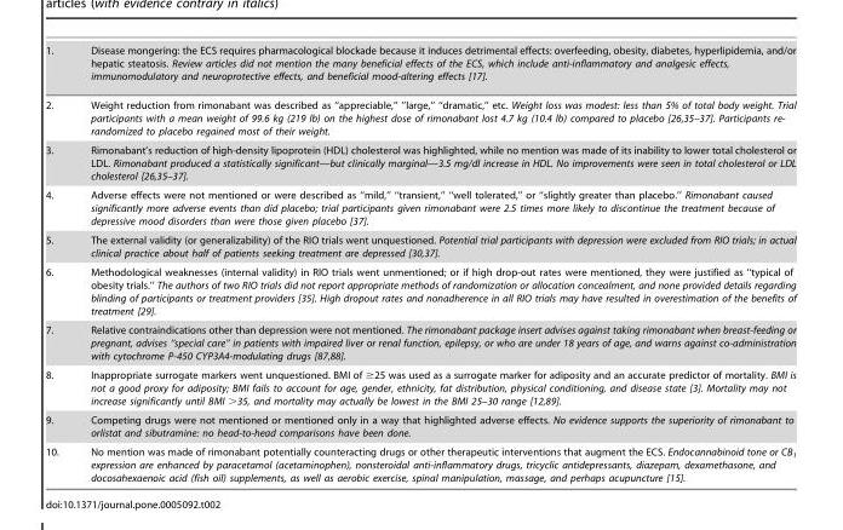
<table><tbody><tr><td>1.</td><td>Disease mongering: the ECS requires pharmacological blockade because it induces detrimental effects: overfeeding, obesity, diabetes, hyperlipidemia, and/or hepatic steatosis. Review articles did not mention the many beneficial effects of the ECS, which include anti-inflammatory and analgesic effects, immunomodulatory and neuroprotective effects, and beneficial mood-altering effects [17].</td></tr><tr><td>2.</td><td>Weight reduction from rimonabant was described as ‘‘appreciable,’’ ’’large,’’ ‘‘dramatic,’’ etc. Weight loss was modest: less than 5% of total body weight. Trial participants with a mean weight of 99.6 kg (219 lb) on the highest dose of rimonabant lost 4.7 kg (10.4 lb) compared to placebo [26,35–37]. Participants re- randomized to placebo regained most of their weight.</td></tr><tr><td>3.</td><td>Rimonabant’s reduction of high-density lipoprotein (HDL) cholesterol was highlighted, while no mention was made of its inability to lower total cholesterol or LDL. Rimonabant produced a statistically significant—but clinically marginal—3.5 mg/dl increase in HDL. No improvements were seen in total cholesterol or LDL cholesterol [26,35–37].</td></tr><tr><td>4.</td><td>Adverse effects were not mentioned or were described as ‘‘mild,’’ ‘‘transient,’’ ‘‘well tolerated,’’ or ‘‘slightly greater than placebo.’’ Rimonabant caused significantly more adverse events than did placebo; trial participants given rimonabant were 2.5 times more likely to discontinue the treatment because of depressive mood disorders than were those given placebo [37].</td></tr><tr><td>5.</td><td>The external validity (or generalizability) of the RIO trials went unquestioned. Potential trial participants with depression were excluded from RIO trials; in actual clinical practice about half of patients seeking treatment are depressed [30,37].</td></tr><tr><td>6.</td><td>Methodological weaknesses (internal validity) in RIO trials went unmentioned; or if high drop-out rates were mentioned, they were justified as ‘‘typical of obesity trials.’’ The authors of two RIO trials did not report appropriate methods of randomization or allocation concealment, and none provided details regarding blinding of participants or treatment providers [35]. High dropout rates and nonadherence in all RIO trials may have resulted in overestimation of the benefits of treatment [29].</td></tr><tr><td>7.</td><td>Relative contraindications other than depression were not mentioned. The rimonabant package insert advises against taking rimonabant when breast-feeding or pregnant, advises ‘‘special care’’ in patients with impaired liver or renal function, epilepsy, or who are under 18 years of age, and warns against co-administration with cytochrome P-450 CYP3A4-modulating drugs [87,88].</td></tr><tr><td>8.</td><td>Inappropriate surrogate markers went unquestioned. BMI of $25 was used as a surrogate marker for adiposity and an accurate predictor of mortality. BMI is not a good proxy for adiposity; BMI fails to account for age, gender, ethnicity, fat distribution, physical conditioning, and disease state [3]. Mortality may not increase significantly until BMI .35, and mortality may actually be lowest in the BMI 25–30 range [12,89].</td></tr><tr><td>9.</td><td>Competing drugs were not mentioned or mentioned only in a way that highlighted adverse effects. No evidence supports the superiority of rimonabant to orlistat and sibutramine: no head-to-head comparisons have been done.</td></tr><tr><td>10.</td><td>No mention was made of rimonabant potentially counteracting drugs or other therapeutic interventions that augment the ECS. Endocannabinoid tone or CB<sub>1</sub> expression are enhanced by paracetamol (acetaminophen), nonsteroidal anti-inflammatory drugs, tricyclic antidepressants, diazepam, dexamethasone, and docosahexaenoic acid (fish oil) supplements, as well as aerobic exercise, spinal manipulation, massage, and perhaps acupuncture [15].</td></tr></tbody></table>